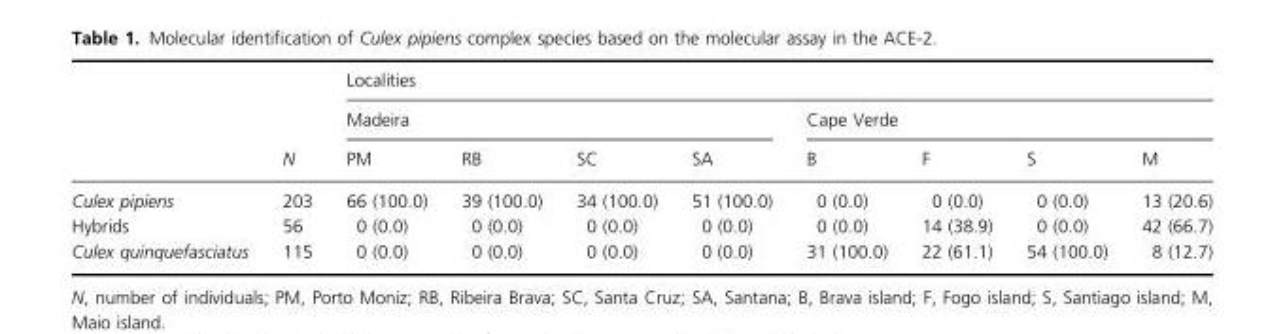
<table><thead><tr><td rowspan="3"></td><td rowspan="3">N</td><td colspan="8">Localities</td></tr><tr><td colspan="4">Madeira</td><td colspan="4">Cape Verde</td></tr><tr><td>PM</td><td>RB</td><td>SC</td><td>SA</td><td>B</td><td>F</td><td>S</td><td>M</td></tr></thead><tbody><tr><td>Culex pipiens</td><td>203</td><td>66 (100.0)</td><td>39 (100.0)</td><td>34 (100.0)</td><td>51 (100.0)</td><td>0 (0.0)</td><td>0 (0.0)</td><td>0 (0.0)</td><td>13 (20.6)</td></tr><tr><td>Hybrids</td><td>56</td><td>0 (0.0)</td><td>0 (0.0)</td><td>0 (0.0)</td><td>0 (0.0)</td><td>0 (0.0)</td><td>14 (38.9)</td><td>0 (0.0)</td><td>42 (66.7)</td></tr><tr><td>Culex quinquefasciatus</td><td>115</td><td>0 (0.0)</td><td>0 (0.0)</td><td>0 (0.0)</td><td>0 (0.0)</td><td>31 (100.0)</td><td>22 (61.1)</td><td>54 (100.0)</td><td>8 (12.7)</td></tr></tbody></table>